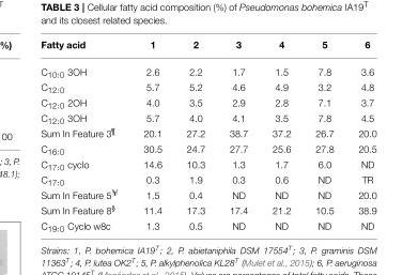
<table><thead><tr><td>Fatty acid</td><td>1</td><td>2</td><td>3</td><td>4</td><td>5</td><td>6</td></tr></thead><tbody><tr><td>C<sub>10:0</sub> 3OH</td><td>2.6</td><td>2.2</td><td>1.7</td><td>1.5</td><td>7.8</td><td>3.6</td></tr><tr><td>C<sub>12:0</sub></td><td>5.7</td><td>5.2</td><td>4.6</td><td>4.9</td><td>3.2</td><td>4.8</td></tr><tr><td>C<sub>12:0</sub> 2OH</td><td>4.0</td><td>3.5</td><td>2.9</td><td>2.8</td><td>7.1</td><td>3.7</td></tr><tr><td>C<sub>12:0</sub> 3OH</td><td>5.7</td><td>4.0</td><td>4.1</td><td>3.5</td><td>7.8</td><td>4.5</td></tr><tr><td>Sum In Feature 3<sup>¶</sup></td><td>20.1</td><td>27.2</td><td>38.7</td><td>37.2</td><td>26.7</td><td>20.0</td></tr><tr><td>C<sub>16:0</sub></td><td>30.5</td><td>24.7</td><td>27.7</td><td>25.6</td><td>27.8</td><td>20.5</td></tr><tr><td>C<sub>17:0</sub> cyclo</td><td>14.6</td><td>10.3</td><td>1.3</td><td>1.7</td><td>6.0</td><td>ND</td></tr><tr><td>C<sub>17:0</sub></td><td>0.3</td><td>1.9</td><td>0.3</td><td>0.6</td><td>ND</td><td>TR</td></tr><tr><td>Sum In Feature 5<sup>¥</sup></td><td>1.5</td><td>0.4</td><td>ND</td><td>ND</td><td>ND</td><td>20.0</td></tr><tr><td>Sum In Feature 8<sup>§</sup></td><td>11.4</td><td>17.3</td><td>17.4</td><td>21.2</td><td>10.5</td><td>38.9</td></tr><tr><td>C<sub>19:0</sub> Cyclo w8c</td><td>1.3</td><td>0.5</td><td>ND</td><td>ND</td><td>ND</td><td>ND</td></tr></tbody></table>